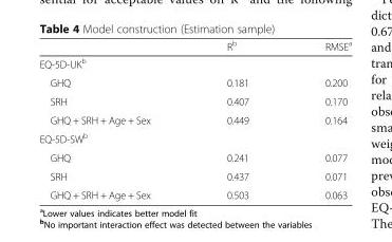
<table><thead><tr><td></td><td>R<sup>b</sup></td><td>RMSE<sup>a</sup></td></tr></thead><tbody><tr><td colspan="3">EQ-5D-UK<sup>b</sup></td></tr><tr><td>GHQ</td><td>0.181</td><td>0.200</td></tr><tr><td>SRH</td><td>0.407</td><td>0.170</td></tr><tr><td>GHQ + SRH + Age + Sex</td><td>0.449</td><td>0.164</td></tr><tr><td colspan="3">EQ-5D-SW<sup>b</sup></td></tr><tr><td>GHQ</td><td>0.241</td><td>0.077</td></tr><tr><td>SRH</td><td>0.437</td><td>0.071</td></tr><tr><td>GHQ + SRH + Age + Sex</td><td>0.503</td><td>0.063</td></tr></tbody></table>